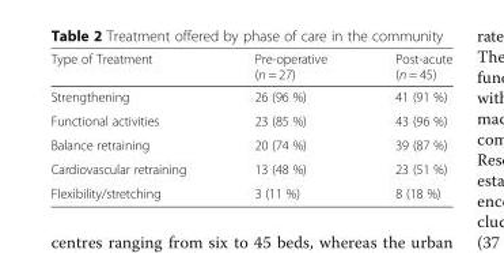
<table><thead><tr><td>Type of Treatment</td><td>Pre-operative (n = 27)</td><td>Post-acute (n = 45)</td></tr></thead><tbody><tr><td>Strengthening</td><td>26 (96 %)</td><td>41 (91 %)</td></tr><tr><td>Functional activities</td><td>23 (85 %)</td><td>43 (96 %)</td></tr><tr><td>Balance retraining</td><td>20 (74 %)</td><td>39 (87 %)</td></tr><tr><td>Cardiovascular retraining</td><td>13 (48 %)</td><td>23 (51 %)</td></tr><tr><td>Flexibility/stretching</td><td>3 (11 %)</td><td>8 (18 %)</td></tr></tbody></table>